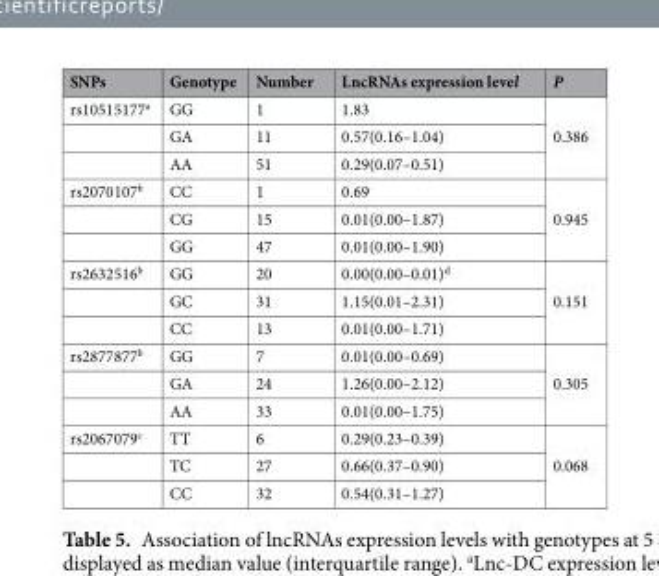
<table><thead><tr><td>SNPs</td><td>Genotype</td><td>Number</td><td>LncRNAs expression level</td><td>P</td></tr></thead><tbody><tr><td rowspan="3">rs10515177<sup>a</sup></td><td>GG</td><td>1</td><td>1.83</td><td rowspan="3">0.386</td></tr><tr><td>GA</td><td>11</td><td>0.57(0.16–1.04)</td></tr><tr><td>AA</td><td>51</td><td>0.29(0.07–0.51)</td></tr><tr><td rowspan="3">rs2070107<sup>b</sup></td><td>CC</td><td>1</td><td>0.69</td><td rowspan="3">0.945</td></tr><tr><td>CG</td><td>15</td><td>0.01(0.00–1.87)</td></tr><tr><td>GG</td><td>47</td><td>0.01(0.00–1.90)</td></tr><tr><td rowspan="3">rs2632516<sup>b</sup></td><td>GG</td><td>20</td><td>0.00(0.00–0.01)<sup>d</sup></td><td rowspan="3">0.151</td></tr><tr><td>GC</td><td>31</td><td>1.15(0.01–2.31)</td></tr><tr><td>CC</td><td>13</td><td>0.01(0.00–1.71)</td></tr><tr><td rowspan="3">rs2877877<sup>b</sup></td><td>GG</td><td>7</td><td>0.01(0.00–0.69)</td><td rowspan="3">0.305</td></tr><tr><td>GA</td><td>24</td><td>1.26(0.00–2.12)</td></tr><tr><td>AA</td><td>33</td><td>0.01(0.00–1.75)</td></tr><tr><td rowspan="3">rs2067079<sup>c</sup></td><td>TT</td><td>6</td><td>0.29(0.23–0.39)</td><td rowspan="3">0.068</td></tr><tr><td>TC</td><td>27</td><td>0.66(0.37–0.90)</td></tr><tr><td>CC</td><td>32</td><td>0.54(0.31–1.27)</td></tr></tbody></table>